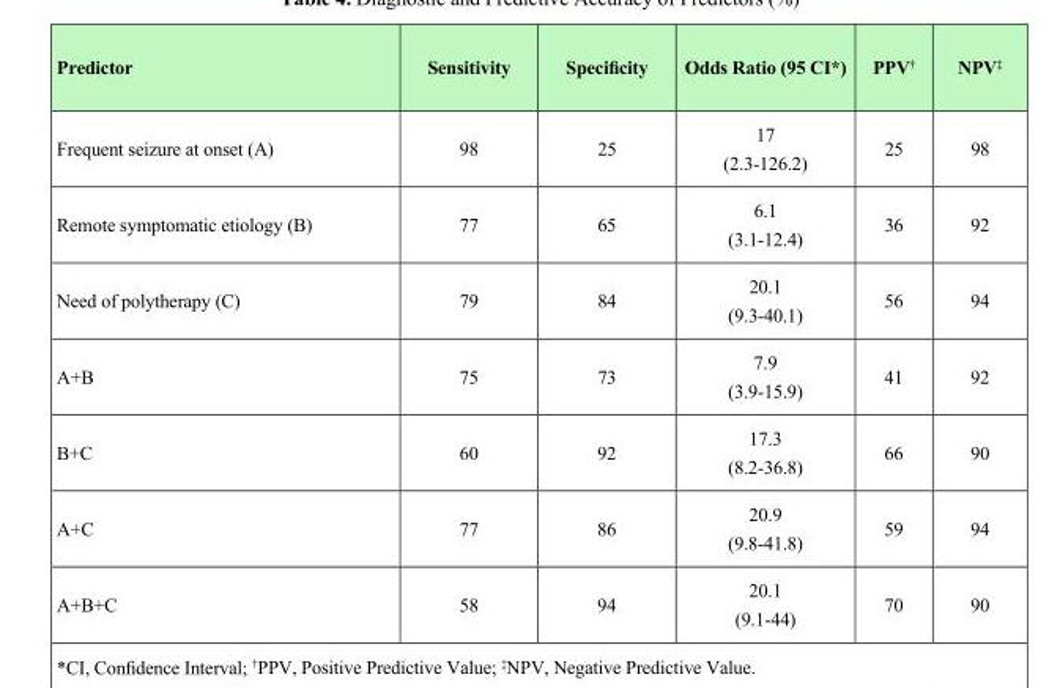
<table><thead><tr><td>Predictor</td><td>Sensitivity</td><td>Specificity</td><td>Odds Ratio (95 CI*)</td><td>PPV†</td><td>NPV‡</td></tr></thead><tbody><tr><td>Frequent seizure at onset (A)</td><td>98</td><td>25</td><td>17 (2.3-126.2)</td><td>25</td><td>98</td></tr><tr><td>Remote symptomatic etiology (B)</td><td>77</td><td>65</td><td>6.1 (3.1-12.4)</td><td>36</td><td>92</td></tr><tr><td>Need of polytherapy (C)</td><td>79</td><td>84</td><td>20.1 (9.3-40.1)</td><td>56</td><td>94</td></tr><tr><td>A+B</td><td>75</td><td>73</td><td>7.9 (3.9-15.9)</td><td>41</td><td>92</td></tr><tr><td>B+C</td><td>60</td><td>92</td><td>17.3 (8.2-36.8)</td><td>66</td><td>90</td></tr><tr><td>A+C</td><td>77</td><td>86</td><td>20.9 (9.8-41.8)</td><td>59</td><td>94</td></tr><tr><td>A+B+C</td><td>58</td><td>94</td><td>20.1 (9.1-44)</td><td>70</td><td>90</td></tr></tbody></table>